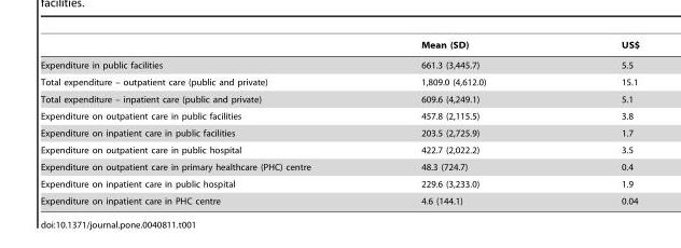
<table><thead><tr><td></td><td>Mean (SD)</td><td>US$</td></tr></thead><tbody><tr><td>Expenditure in public facilities</td><td>661.3 (3,445.7)</td><td>5.5</td></tr><tr><td>Total expenditure – outpatient care (public and private)</td><td>1,809.0 (4,612.0)</td><td>15.1</td></tr><tr><td>Total expenditure – inpatient care (public and private)</td><td>609.6 (4,249.1)</td><td>5.1</td></tr><tr><td>Expenditure on outpatient care in public facilities</td><td>457.8 (2,115.5)</td><td>3.8</td></tr><tr><td>Expenditure on inpatient care in public facilities</td><td>203.5 (2,725.9)</td><td>1.7</td></tr><tr><td>Expenditure on outpatient care in public hospital</td><td>422.7 (2,022.2)</td><td>3.5</td></tr><tr><td>Expenditure on outpatient care in primary healthcare (PHC) centre</td><td>48.3 (724.7)</td><td>0.4</td></tr><tr><td>Expenditure on inpatient care in public hospital</td><td>229.6 (3,233.0)</td><td>1.9</td></tr><tr><td>Expenditure on inpatient care in PHC centre</td><td>4.6 (144.1)</td><td>0.04</td></tr></tbody></table>